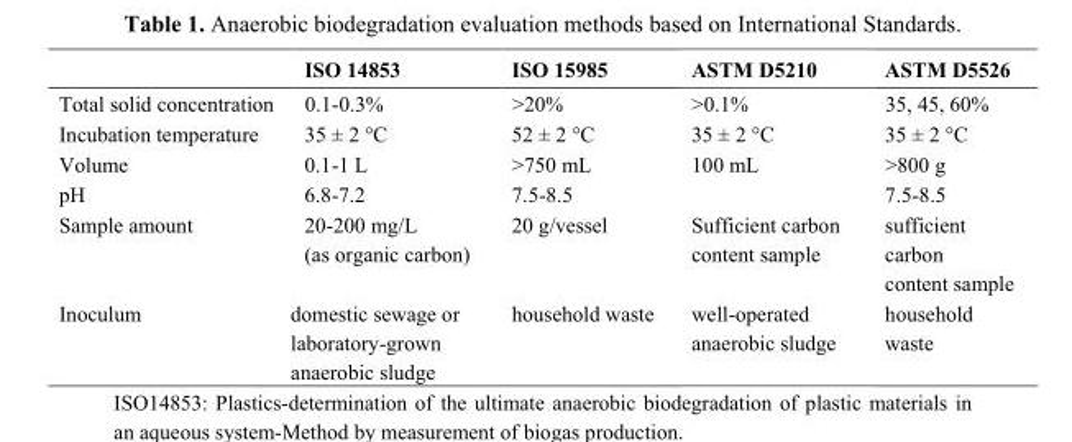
<table><thead><tr><td></td><td>ISO 14853</td><td>ISO 15985</td><td>ASTM D5210</td><td>ASTM D5526</td></tr></thead><tbody><tr><td>Total solid concentration</td><td>0.1-0.3%</td><td>&gt;20%</td><td>&gt;0.1%</td><td>35, 45, 60%</td></tr><tr><td>Incubation temperature</td><td>35 ± 2 °C</td><td>52 ± 2 °C</td><td>35 ± 2 °C</td><td>35 ± 2 °C</td></tr><tr><td>Volume</td><td>0.1-1 L</td><td>&gt;750 mL</td><td>100 mL</td><td>&gt;800 g</td></tr><tr><td>pH</td><td>6.8-7.2</td><td>7.5-8.5</td><td></td><td>7.5-8.5</td></tr><tr><td>Sample amount</td><td>20-200 mg/L (as organic carbon)</td><td>20 g/vessel</td><td>Sufficient carbon content sample</td><td>sufficient carbon content sample</td></tr><tr><td>Inoculum</td><td>domestic sewage or laboratory-grown anaerobic sludge</td><td>household waste</td><td>well-operated anaerobic sludge</td><td>household waste</td></tr></tbody></table>